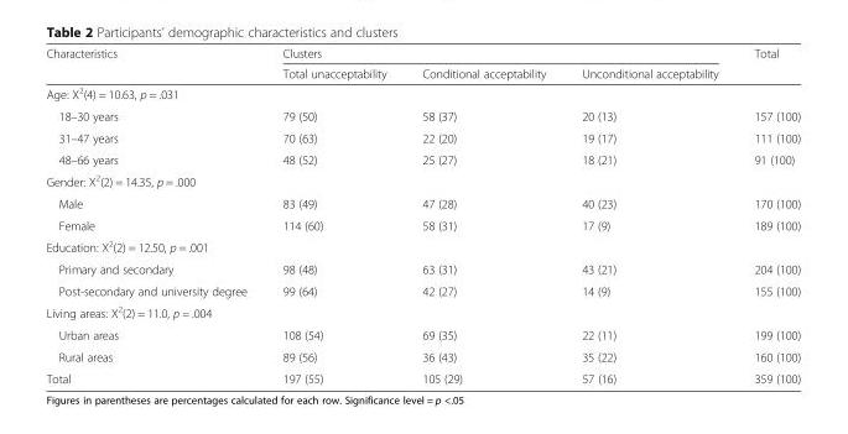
<table><thead><tr><td rowspan="2">Characteristics</td><td colspan="3">Clusters</td><td rowspan="2">Total</td></tr><tr><td>Total unacceptability</td><td>Conditional acceptability</td><td>Unconditional acceptability</td></tr></thead><tbody><tr><td colspan="5">Age: X<sup>2</sup>(4) = 10.63, p = .031</td></tr><tr><td>18–30 years</td><td>79 (50)</td><td>58 (37)</td><td>20 (13)</td><td>157 (100)</td></tr><tr><td>31–47 years</td><td>70 (63)</td><td>22 (20)</td><td>19 (17)</td><td>111 (100)</td></tr><tr><td>48–66 years</td><td>48 (52)</td><td>25 (27)</td><td>18 (21)</td><td>91 (100)</td></tr><tr><td colspan="5">Gender: X<sup>2</sup>(2) = 14.35, p = .000</td></tr><tr><td>Male</td><td>83 (49)</td><td>47 (28)</td><td>40 (23)</td><td>170 (100)</td></tr><tr><td>Female</td><td>114 (60)</td><td>58 (31)</td><td>17 (9)</td><td>189 (100)</td></tr><tr><td colspan="5">Education: X<sup>2</sup>(2) = 12.50, p = .001</td></tr><tr><td>Primary and secondary</td><td>98 (48)</td><td>63 (31)</td><td>43 (21)</td><td>204 (100)</td></tr><tr><td>Post-secondary and university degree</td><td>99 (64)</td><td>42 (27)</td><td>14 (9)</td><td>155 (100)</td></tr><tr><td colspan="5">Living areas: X<sup>2</sup>(2) = 11.0, p = .004</td></tr><tr><td>Urban areas</td><td>108 (54)</td><td>69 (35)</td><td>22 (11)</td><td>199 (100)</td></tr><tr><td>Rural areas</td><td>89 (56)</td><td>36 (43)</td><td>35 (22)</td><td>160 (100)</td></tr><tr><td>Total</td><td>197 (55)</td><td>105 (29)</td><td>57 (16)</td><td>359 (100)</td></tr></tbody></table>